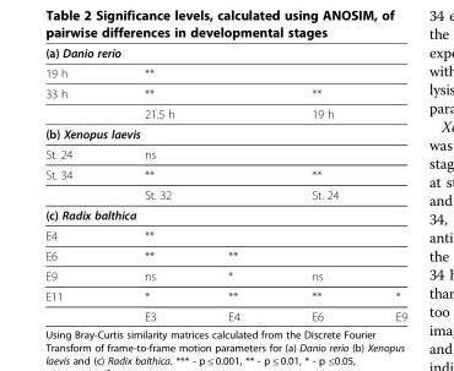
<table><thead><tr><td colspan="5">(a) Danio rerio</td></tr></thead><tbody><tr><td>19 h</td><td colspan="2">**</td><td colspan="2"></td></tr><tr><td rowspan="2">33 h</td><td colspan="2">**</td><td colspan="2">**</td></tr><tr><td colspan="2">21.5 h</td><td colspan="2">19 h</td></tr><tr><td colspan="5">(b) Xenopus laevis</td></tr><tr><td>St. 24</td><td colspan="2">ns</td><td colspan="2"></td></tr><tr><td rowspan="2">St. 34</td><td colspan="2">**</td><td colspan="2">**</td></tr><tr><td colspan="2">St. 32</td><td colspan="2">St. 24</td></tr><tr><td colspan="5">(c) Radix balthica</td></tr><tr><td>E4</td><td>**</td><td></td><td></td><td></td></tr><tr><td>E6</td><td>**</td><td>**</td><td></td><td></td></tr><tr><td>E9</td><td>ns</td><td>*</td><td>ns</td><td></td></tr><tr><td rowspan="2">E11</td><td>*</td><td>**</td><td>**</td><td>*</td></tr><tr><td>E3</td><td>E4</td><td>E6</td><td>E9</td></tr></tbody></table>